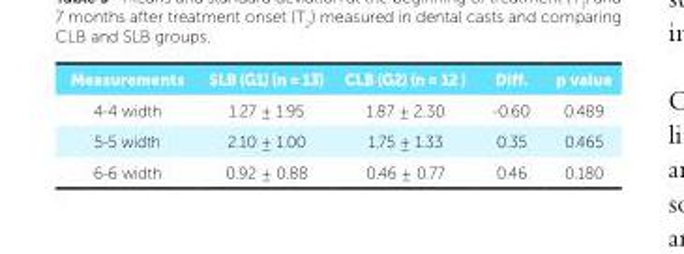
<table><thead><tr><td>Measurements</td><td>SLB (G1) (n = 13)</td><td>CLB (G2) (n = 12 )</td><td>Diff.</td><td>p value</td></tr></thead><tbody><tr><td>4-4 width</td><td>1.27 ± 1.95</td><td>1.87 ± 2.30</td><td>-0.60</td><td>0.489</td></tr><tr><td>5-5 width</td><td>2.10 ± 1.00</td><td>1.75 ± 1.33</td><td>0.35</td><td>0.465</td></tr><tr><td>6-6 width</td><td>0.92 ± 0.88</td><td>0.46 ± 0.77</td><td>0.46</td><td>0.180</td></tr></tbody></table>